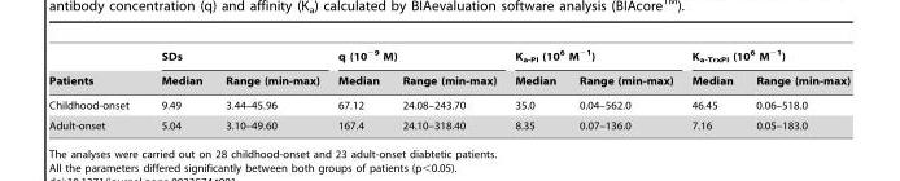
<table><thead><tr><td rowspan="2">Patients</td><td colspan="2">SDs</td><td colspan="2">q (10<sup>−9</sup> M)</td><td colspan="2">K<sub>a-PI</sub> (10<sup>6</sup> M<sup>−1</sup>)</td><td colspan="2">K<sub>a-TrxPI</sub> (10<sup>6</sup> M<sup>−1</sup>)</td></tr><tr><td>Median</td><td>Range (min-max)</td><td>Median</td><td>Range (min-max)</td><td>Median</td><td>Range (min-max)</td><td>Median</td><td>Range (min-max)</td></tr></thead><tbody><tr><td>Childhood-onset</td><td>9.49</td><td>3.44–45.96</td><td>67.12</td><td>24.08–243.70</td><td>35.0</td><td>0.04–562.0</td><td>46.45</td><td>0.06–518.0</td></tr><tr><td>Adult-onset</td><td>5.04</td><td>3.10–49.60</td><td>167.4</td><td>24.10–318.40</td><td>8.35</td><td>0.07–136.0</td><td>7.16</td><td>0.05–183.0</td></tr></tbody></table>